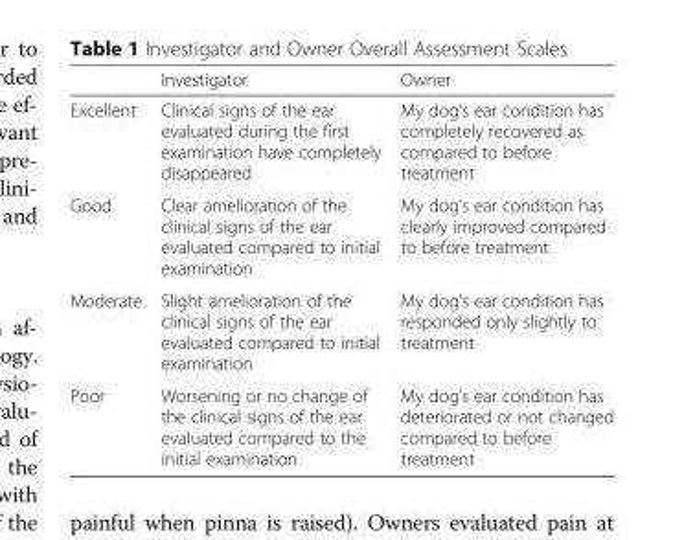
<table><thead><tr><td></td><td>Investigator</td><td>Owner</td></tr></thead><tbody><tr><td>Excellent</td><td>Clinical signs of the ear evaluated during the first examination have completely disappeared</td><td>My dog’s ear condition has completely recovered as compared to before treatment</td></tr><tr><td>Good</td><td>Clear amelioration of the clinical signs of the ear evaluated compared to initial examination</td><td>My dog’s ear condition has clearly improved compared to before treatment</td></tr><tr><td>Moderate</td><td>Slight amelioration of the clinical signs of the ear evaluated compared to initial examination</td><td>My dog’s ear condition has responded only slightly to treatment</td></tr><tr><td>Poor</td><td>Worsening or no change of the clinical signs of the ear evaluated compared to the initial examination</td><td>My dog’s ear condition has deteriorated or not changed compared to before treatment</td></tr></tbody></table>